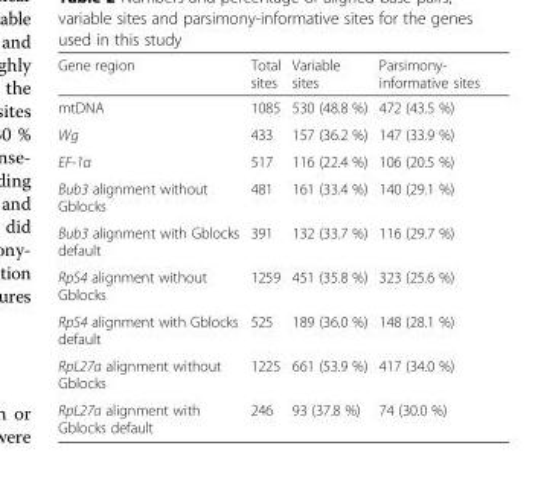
<table><thead><tr><td>Gene region</td><td>Total sites</td><td>Variable sites</td><td>Parsimony- informative sites</td></tr></thead><tbody><tr><td>mtDNA</td><td>1085</td><td>530 (48.8 %)</td><td>472 (43.5 %)</td></tr><tr><td>Wg</td><td>433</td><td>157 (36.2 %)</td><td>147 (33.9 %)</td></tr><tr><td>EF-1α</td><td>517</td><td>116 (22.4 %)</td><td>106 (20.5 %)</td></tr><tr><td>Bub3 alignment without Gblocks</td><td>481</td><td>161 (33.4 %)</td><td>140 (29.1 %)</td></tr><tr><td>Bub3 alignment with Gblocks default</td><td>391</td><td>132 (33.7 %)</td><td>116 (29.7 %)</td></tr><tr><td>RpS4 alignment without Gblocks</td><td>1259</td><td>451 (35.8 %)</td><td>323 (25.6 %)</td></tr><tr><td>RpS4 alignment with Gblocks default</td><td>525</td><td>189 (36.0 %)</td><td>148 (28.1 %)</td></tr><tr><td>RpL27a alignment without Gblocks</td><td>1225</td><td>661 (53.9 %)</td><td>417 (34.0 %)</td></tr><tr><td>RpL27a alignment with Gblocks default</td><td>246</td><td>93 (37.8 %)</td><td>74 (30.0 %)</td></tr></tbody></table>